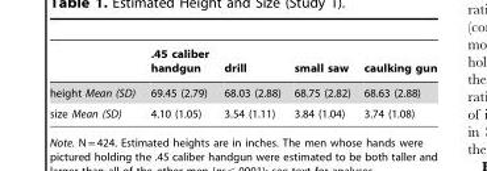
<table><thead><tr><td></td><td>.45 caliber handgun</td><td>drill</td><td>small saw</td><td>caulking gun</td></tr></thead><tbody><tr><td>height Mean (SD)</td><td>69.45 (2.79)</td><td>68.03 (2.88)</td><td>68.75 (2.82)</td><td>68.63 (2.88)</td></tr><tr><td>size Mean (SD)</td><td>4.10 (1.05)</td><td>3.54 (1.11)</td><td>3.84 (1.04)</td><td>3.74 (1.08)</td></tr></tbody></table>